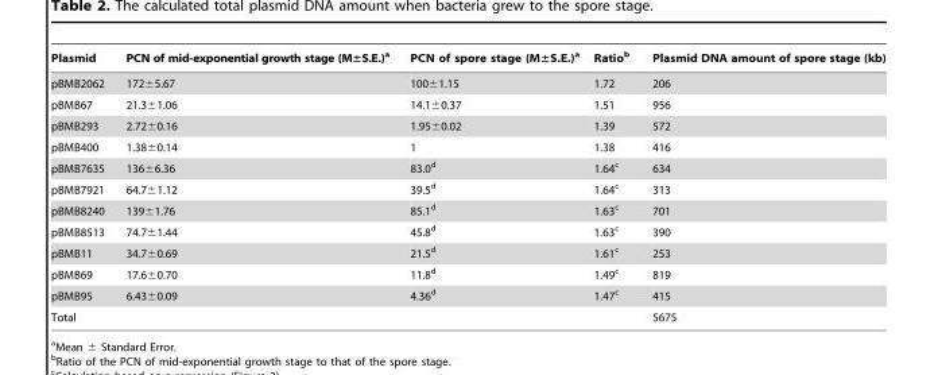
<table><thead><tr><td>Plasmid</td><td>PCN of mid-exponential growth stage (M±S.E.)<sup>a</sup></td><td>PCN of spore stage (M±S.E.)<sup>a</sup></td><td>Ratio<sup>b</sup></td><td>Plasmid DNA amount of spore stage (kb)</td></tr></thead><tbody><tr><td>pBMB2062</td><td>172±5.67</td><td>100±1.15</td><td>1.72</td><td>206</td></tr><tr><td>pBMB67</td><td>21.3±1.06</td><td>14.1±0.37</td><td>1.51</td><td>956</td></tr><tr><td>pBMB293</td><td>2.72±0.16</td><td>1.95±0.02</td><td>1.39</td><td>572</td></tr><tr><td>pBMB400</td><td>1.38±0.14</td><td>1</td><td>1.38</td><td>416</td></tr><tr><td>pBMB7635</td><td>136±6.36</td><td>83.0<sup>d</sup></td><td>1.64<sup>c</sup></td><td>634</td></tr><tr><td>pBMB7921</td><td>64.7±1.12</td><td>39.5<sup>d</sup></td><td>1.64<sup>c</sup></td><td>313</td></tr><tr><td>pBMB8240</td><td>139±1.76</td><td>85.1<sup>d</sup></td><td>1.63<sup>c</sup></td><td>701</td></tr><tr><td>pBMB8513</td><td>74.7±1.44</td><td>45.8<sup>d</sup></td><td>1.63<sup>c</sup></td><td>390</td></tr><tr><td>pBMB11</td><td>34.7±0.69</td><td>21.5<sup>d</sup></td><td>1.61<sup>c</sup></td><td>253</td></tr><tr><td>pBMB69</td><td>17.6±0.70</td><td>11.8<sup>d</sup></td><td>1.49<sup>c</sup></td><td>819</td></tr><tr><td>pBMB95</td><td>6.43±0.09</td><td>4.36<sup>d</sup></td><td>1.47<sup>c</sup></td><td>415</td></tr><tr><td>Total</td><td></td><td></td><td></td><td>5675</td></tr></tbody></table>